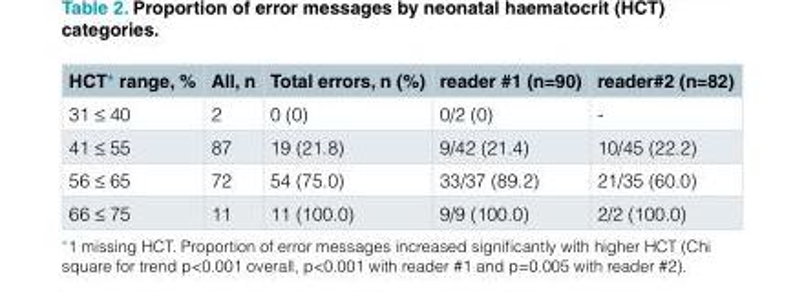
<table><thead><tr><td>HCT* range, %</td><td>All, n</td><td>Total errors, n (%)</td><td>reader #1 (n=90)</td><td>reader#2 (n=82)</td></tr></thead><tbody><tr><td>31 ≤ 40</td><td>2</td><td>0 (0)</td><td>0/2 (0)</td><td>-</td></tr><tr><td>41 ≤ 55</td><td>87</td><td>19 (21.8)</td><td>9/42 (21.4)</td><td>10/45 (22.2)</td></tr><tr><td>56 ≤ 65</td><td>72</td><td>54 (75.0)</td><td>33/37 (89.2)</td><td>21/35 (60.0)</td></tr><tr><td>66 ≤ 75</td><td>11</td><td>11 (100.0)</td><td>9/9 (100.0)</td><td>2/2 (100.0)</td></tr></tbody></table>